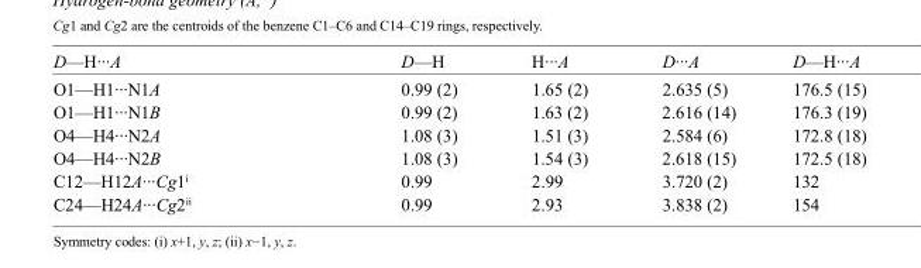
<table><tbody><tr><td>D—H···A</td><td>D—H</td><td>H···A</td><td>D···A</td><td>D—H···A</td></tr><tr><td>O1—H1···N1A</td><td>0.99 (2)</td><td>1.65 (2)</td><td>2.635 (5)</td><td>176.5 (15)</td></tr><tr><td>O1—H1···N1B</td><td>0.99 (2)</td><td>1.63 (2)</td><td>2.616 (14)</td><td>176.3 (19)</td></tr><tr><td>O4—H4···N2A</td><td>1.08 (3)</td><td>1.51 (3)</td><td>2.584 (6)</td><td>172.8 (18)</td></tr><tr><td>O4—H4···N2B</td><td>1.08 (3)</td><td>1.54 (3)</td><td>2.618 (15)</td><td>172.5 (18)</td></tr><tr><td>C12—H12A···Cg1<sup>i</sup></td><td>0.99</td><td>2.99</td><td>3.720 (2)</td><td>132</td></tr><tr><td>C24—H24A···Cg2<sup>ii</sup></td><td>0.99</td><td>2.93</td><td>3.838 (2)</td><td>154</td></tr></tbody></table>